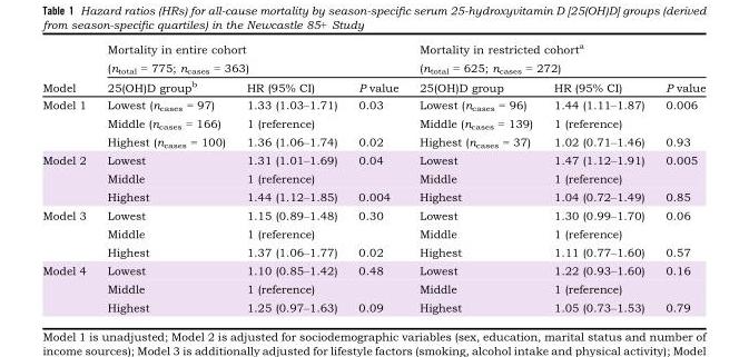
<table><thead><tr><td rowspan="2">Model</td><td colspan="3">Mortality in entire cohort (n<sub>total</sub> = 775; n<sub>cases</sub> = 363)</td><td colspan="3">Mortality in restricted cohort<sup>a</sup> (n<sub>total</sub> = 625; n<sub>cases</sub> = 272)</td></tr><tr><td>25(OH)D group<sup>b</sup></td><td>HR (95% CI)</td><td>P value</td><td>25(OH)D group</td><td>HR (95% CI)</td><td>P value</td></tr></thead><tbody><tr><td rowspan="3">Model 1</td><td>Lowest (n<sub>cases</sub> = 97)</td><td>1.33 (1.03–1.71)</td><td>0.03</td><td>Lowest (n<sub>cases</sub> = 96)</td><td>1.44 (1.11–1.87)</td><td>0.006</td></tr><tr><td>Middle (n<sub>cases</sub> = 166)</td><td>1 (reference)</td><td></td><td>Middle (n<sub>cases</sub> = 139)</td><td>1 (reference)</td><td></td></tr><tr><td>Highest (n<sub>cases</sub> = 100)</td><td>1.36 (1.06–1.74)</td><td>0.02</td><td>Highest (n<sub>cases</sub> = 37)</td><td>1.02 (0.71–1.46)</td><td>0.93</td></tr><tr><td rowspan="3">Model 2</td><td>Lowest</td><td>1.31 (1.01–1.69)</td><td>0.04</td><td>Lowest</td><td>1.47 (1.12–1.91)</td><td>0.005</td></tr><tr><td>Middle</td><td>1 (reference)</td><td></td><td>Middle</td><td>1 (reference)</td><td></td></tr><tr><td>Highest</td><td>1.44 (1.12–1.85)</td><td>0.004</td><td>Highest</td><td>1.04 (0.72–1.49)</td><td>0.85</td></tr><tr><td rowspan="3">Model 3</td><td>Lowest</td><td>1.15 (0.89–1.48)</td><td>0.30</td><td>Lowest</td><td>1.30 (0.99–1.70)</td><td>0.06</td></tr><tr><td>Middle</td><td>1 (reference)</td><td></td><td>Middle</td><td>1 (reference)</td><td></td></tr><tr><td>Highest</td><td>1.37 (1.06–1.77)</td><td>0.02</td><td>Highest</td><td>1.11 (0.77–1.60)</td><td>0.57</td></tr><tr><td rowspan="3">Model 4</td><td>Lowest</td><td>1.10 (0.85–1.42)</td><td>0.48</td><td>Lowest</td><td>1.22 (0.93–1.60)</td><td>0.16</td></tr><tr><td>Middle</td><td>1 (reference)</td><td></td><td>Middle</td><td>1 (reference)</td><td></td></tr><tr><td>Highest</td><td>1.25 (0.97–1.63)</td><td>0.09</td><td>Highest</td><td>1.05 (0.73–1.53)</td><td>0.79</td></tr></tbody></table>